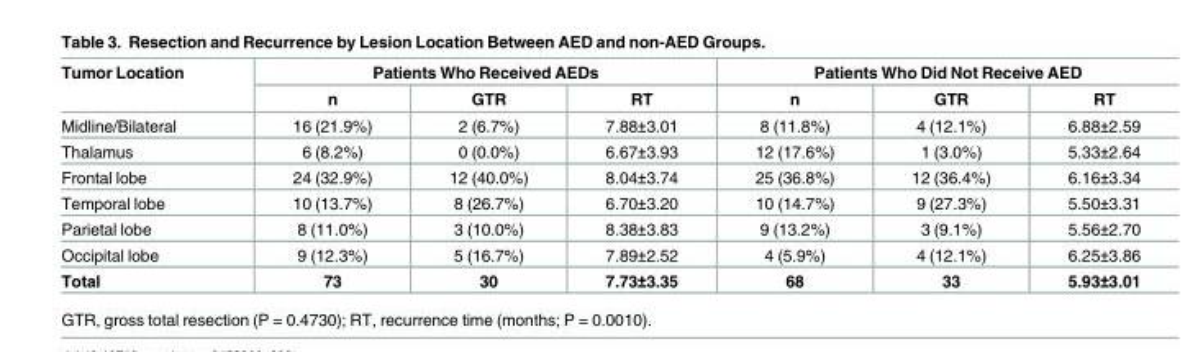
<table><thead><tr><td rowspan="2">Tumor Location</td><td colspan="3">Patients Who Received AEDs</td><td colspan="3">Patients Who Did Not Receive AED</td></tr><tr><td>n</td><td>GTR</td><td>RT</td><td>n</td><td>GTR</td><td>RT</td></tr></thead><tbody><tr><td>Midline/Bilateral</td><td>16 (21.9%)</td><td>2 (6.7%)</td><td>7.88±3.01</td><td>8 (11.8%)</td><td>4 (12.1%)</td><td>6.88±2.59</td></tr><tr><td>Thalamus</td><td>6 (8.2%)</td><td>0 (0.0%)</td><td>6.67±3.93</td><td>12 (17.6%)</td><td>1 (3.0%)</td><td>5.33±2.64</td></tr><tr><td>Frontal lobe</td><td>24 (32.9%)</td><td>12 (40.0%)</td><td>8.04±3.74</td><td>25 (36.8%)</td><td>12 (36.4%)</td><td>6.16±3.34</td></tr><tr><td>Temporal lobe</td><td>10 (13.7%)</td><td>8 (26.7%)</td><td>6.70±3.20</td><td>10 (14.7%)</td><td>9 (27.3%)</td><td>5.50±3.31</td></tr><tr><td>Parietal lobe</td><td>8 (11.0%)</td><td>3 (10.0%)</td><td>8.38±3.83</td><td>9 (13.2%)</td><td>3 (9.1%)</td><td>5.56±2.70</td></tr><tr><td>Occipital lobe</td><td>9 (12.3%)</td><td>5 (16.7%)</td><td>7.89±2.52</td><td>4 (5.9%)</td><td>4 (12.1%)</td><td>6.25±3.86</td></tr><tr><td>Total</td><td>73</td><td>30</td><td>7.73±3.35</td><td>68</td><td>33</td><td>5.93±3.01</td></tr></tbody></table>